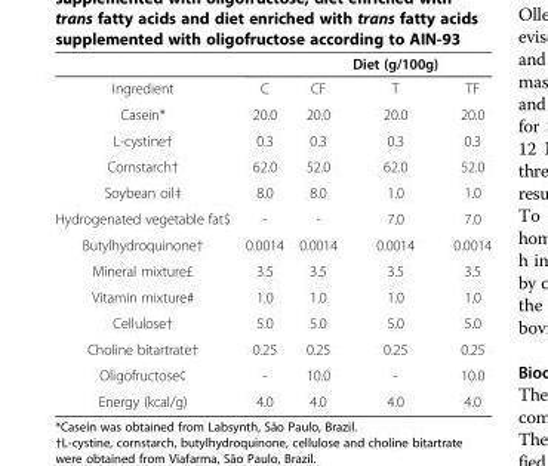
<table><thead><tr><td></td><td></td><td></td><td>Diet (g/100g)</td><td></td></tr></thead><tbody><tr><td>Ingredient</td><td>C</td><td>CF</td><td>T</td><td>TF</td></tr><tr><td>Casein*</td><td>20.0</td><td>20.0</td><td>20.0</td><td>20.0</td></tr><tr><td>L-cystine†</td><td>0.3</td><td>0.3</td><td>0.3</td><td>0.3</td></tr><tr><td>Cornstarch†</td><td>62.0</td><td>52.0</td><td>62.0</td><td>52.0</td></tr><tr><td>Soybean oil‡</td><td>8.0</td><td>8.0</td><td>1.0</td><td>1.0</td></tr><tr><td>Hydrogenated vegetable fat$</td><td>-</td><td>-</td><td>7.0</td><td>7.0</td></tr><tr><td>Butylhydroquinone†</td><td>0.0014</td><td>0.0014</td><td>0.0014</td><td>0.0014</td></tr><tr><td>Mineral mixture£</td><td>3.5</td><td>3.5</td><td>3.5</td><td>3.5</td></tr><tr><td>Vitamin mixture#</td><td>1.0</td><td>1.0</td><td>1.0</td><td>1.0</td></tr><tr><td>Cellulose†</td><td>5.0</td><td>5.0</td><td>5.0</td><td>5.0</td></tr><tr><td>Choline bitartrate†</td><td>0.25</td><td>0.25</td><td>0.25</td><td>0.25</td></tr><tr><td>Oligofructose¢</td><td>-</td><td>10.0</td><td>-</td><td>10.0</td></tr><tr><td>Energy (kcal/g)</td><td>4.0</td><td>4.0</td><td>4.0</td><td>4.0</td></tr></tbody></table>